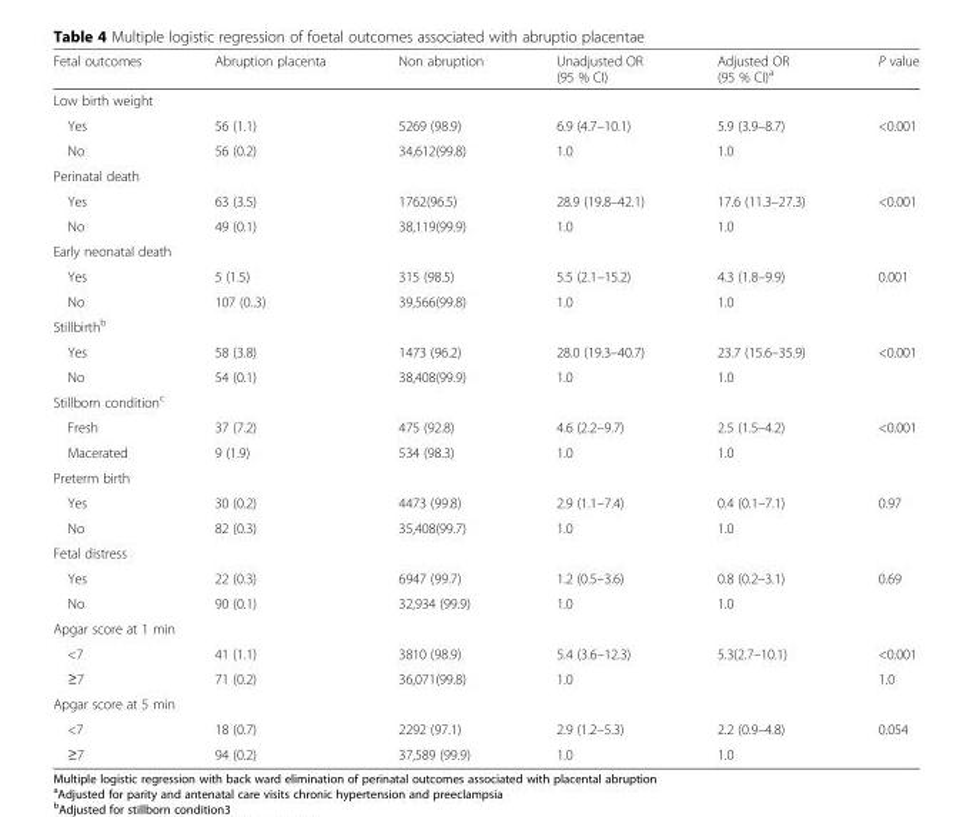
<table><thead><tr><td>Fetal outcomes</td><td>Abruption placenta</td><td>Non abruption</td><td>Unadjusted OR (95 % CI)</td><td>Adjusted OR (95 % CI)<sup>a</sup></td><td>P value</td></tr></thead><tbody><tr><td colspan="6">Low birth weight</td></tr><tr><td>Yes</td><td>56 (1.1)</td><td>5269 (98.9)</td><td>6.9 (4.7–10.1)</td><td>5.9 (3.9–8.7)</td><td>&lt;0.001</td></tr><tr><td>No</td><td>56 (0.2)</td><td>34,612(99.8)</td><td>1.0</td><td>1.0</td><td></td></tr><tr><td colspan="6">Perinatal death</td></tr><tr><td>Yes</td><td>63 (3.5)</td><td>1762(96.5)</td><td>28.9 (19.8–42.1)</td><td>17.6 (11.3–27.3)</td><td>&lt;0.001</td></tr><tr><td>No</td><td>49 (0.1)</td><td>38,119(99.9)</td><td>1.0</td><td>1.0</td><td></td></tr><tr><td colspan="6">Early neonatal death</td></tr><tr><td>Yes</td><td>5 (1.5)</td><td>315 (98.5)</td><td>5.5 (2.1–15.2)</td><td>4.3 (1.8–9.9)</td><td>0.001</td></tr><tr><td>No</td><td>107 (0..3)</td><td>39,566(99.8)</td><td>1.0</td><td>1.0</td><td></td></tr><tr><td colspan="6">Stillbirth<sup>b</sup></td></tr><tr><td>Yes</td><td>58 (3.8)</td><td>1473 (96.2)</td><td>28.0 (19.3–40.7)</td><td>23.7 (15.6–35.9)</td><td>&lt;0.001</td></tr><tr><td>No</td><td>54 (0.1)</td><td>38,408(99.9)</td><td>1.0</td><td>1.0</td><td></td></tr><tr><td colspan="6">Stillborn condition<sup>c</sup></td></tr><tr><td>Fresh</td><td>37 (7.2)</td><td>475 (92.8)</td><td>4.6 (2.2–9.7)</td><td>2.5 (1.5–4.2)</td><td>&lt;0.001</td></tr><tr><td>Macerated</td><td>9 (1.9)</td><td>534 (98.3)</td><td>1.0</td><td>1.0</td><td></td></tr><tr><td colspan="6">Preterm birth</td></tr><tr><td>Yes</td><td>30 (0.2)</td><td>4473 (99.8)</td><td>2.9 (1.1–7.4)</td><td>0.4 (0.1–7.1)</td><td>0.97</td></tr><tr><td>No</td><td>82 (0.3)</td><td>35,408(99.7)</td><td>1.0</td><td>1.0</td><td></td></tr><tr><td colspan="6">Fetal distress</td></tr><tr><td>Yes</td><td>22 (0.3)</td><td>6947 (99.7)</td><td>1.2 (0.5–3.6)</td><td>0.8 (0.2–3.1)</td><td>0.69</td></tr><tr><td>No</td><td>90 (0.1)</td><td>32,934 (99.9)</td><td>1.0</td><td>1.0</td><td></td></tr><tr><td colspan="6">Apgar score at 1 min</td></tr><tr><td>&lt;7</td><td>41 (1.1)</td><td>3810 (98.9)</td><td>5.4 (3.6–12.3)</td><td>5.3(2.7–10.1)</td><td>&lt;0.001</td></tr><tr><td>≥7</td><td>71 (0.2)</td><td>36,071(99.8)</td><td>1.0</td><td></td><td>1.0</td></tr><tr><td colspan="6">Apgar score at 5 min</td></tr><tr><td>&lt;7</td><td>18 (0.7)</td><td>2292 (97.1)</td><td>2.9 (1.2–5.3)</td><td>2.2 (0.9–4.8)</td><td>0.054</td></tr><tr><td>≥7</td><td>94 (0.2)</td><td>37,589 (99.9)</td><td>1.0</td><td>1.0</td><td></td></tr></tbody></table>